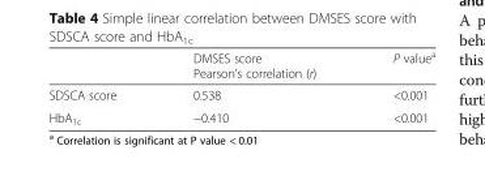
<table><thead><tr><td></td><td>DMSES score Pearson’s correlation (r)</td><td>P value<sup>a</sup></td></tr></thead><tbody><tr><td>SDSCA score</td><td>0.538</td><td>&lt;0.001</td></tr><tr><td>HbA<sub>1c</sub></td><td>−0.410</td><td>&lt;0.001</td></tr></tbody></table>